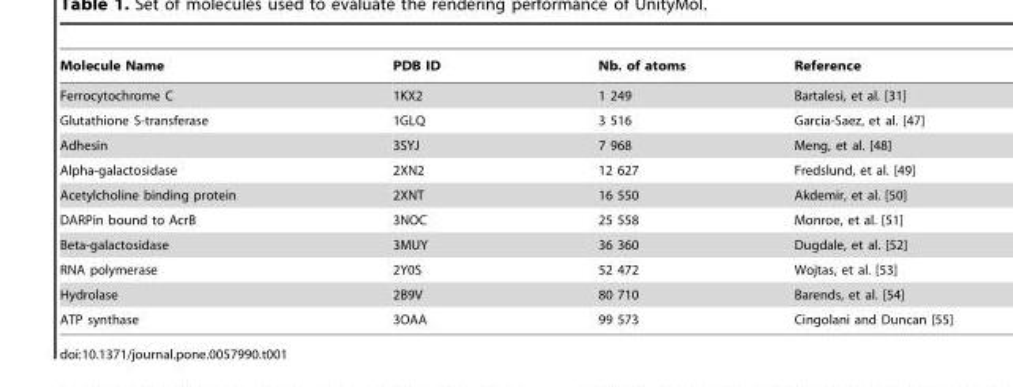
<table><thead><tr><td>Molecule Name</td><td>PDB ID</td><td>Nb. of atoms</td><td>Reference</td></tr></thead><tbody><tr><td>Ferrocytochrome C</td><td>1KX2</td><td>1 249</td><td>Bartalesi, et al. [31]</td></tr><tr><td>Glutathione S-transferase</td><td>1GLQ</td><td>3 516</td><td>Garcia-Saez, et al. [47]</td></tr><tr><td>Adhesin</td><td>3SYJ</td><td>7 968</td><td>Meng, et al. [48]</td></tr><tr><td>Alpha-galactosidase</td><td>2XN2</td><td>12 627</td><td>Fredslund, et al. [49]</td></tr><tr><td>Acetylcholine binding protein</td><td>2XNT</td><td>16 550</td><td>Akdemir, et al. [50]</td></tr><tr><td>DARPin bound to AcrB</td><td>3NOC</td><td>25 558</td><td>Monroe, et al. [51]</td></tr><tr><td>Beta-galactosidase</td><td>3MUY</td><td>36 360</td><td>Dugdale, et al. [52]</td></tr><tr><td>RNA polymerase</td><td>2Y0S</td><td>52 472</td><td>Wojtas, et al. [53]</td></tr><tr><td>Hydrolase</td><td>2B9V</td><td>80 710</td><td>Barends, et al. [54]</td></tr><tr><td>ATP synthase</td><td>3OAA</td><td>99 573</td><td>Cingolani and Duncan [55]</td></tr></tbody></table>